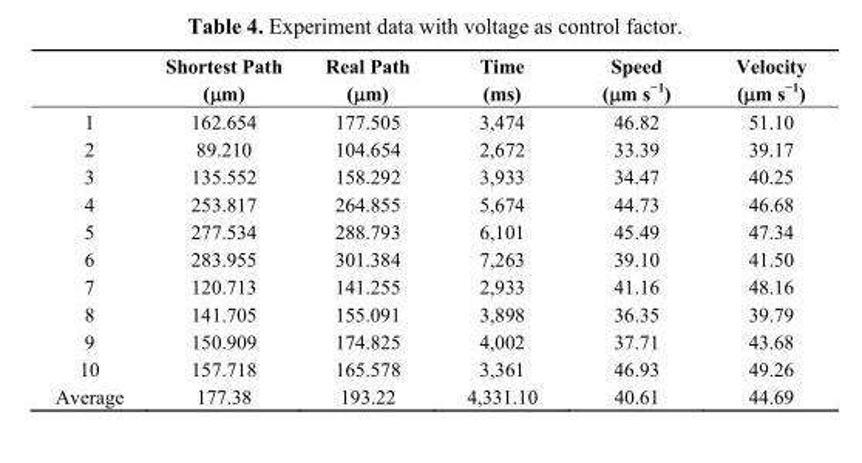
<table><thead><tr><td></td><td>Shortest Path (μm)</td><td>Real Path (μm)</td><td>Time (ms)</td><td>Speed (μm s<sup>−1</sup>)</td><td>Velocity (μm s<sup>−1</sup>)</td></tr></thead><tbody><tr><td>1</td><td>162.654</td><td>177.505</td><td>3,474</td><td>46.82</td><td>51.10</td></tr><tr><td>2</td><td>89.210</td><td>104.654</td><td>2,672</td><td>33.39</td><td>39.17</td></tr><tr><td>3</td><td>135.552</td><td>158.292</td><td>3,933</td><td>34.47</td><td>40.25</td></tr><tr><td>4</td><td>253.817</td><td>264.855</td><td>5,674</td><td>44.73</td><td>46.68</td></tr><tr><td>5</td><td>277.534</td><td>288.793</td><td>6,101</td><td>45.49</td><td>47.34</td></tr><tr><td>6</td><td>283.955</td><td>301.384</td><td>7,263</td><td>39.10</td><td>41.50</td></tr><tr><td>7</td><td>120.713</td><td>141.255</td><td>2,933</td><td>41.16</td><td>48.16</td></tr><tr><td>8</td><td>141.705</td><td>155.091</td><td>3,898</td><td>36.35</td><td>39.79</td></tr><tr><td>9</td><td>150.909</td><td>174.825</td><td>4,002</td><td>37.71</td><td>43.68</td></tr><tr><td>10</td><td>157.718</td><td>165.578</td><td>3,361</td><td>46.93</td><td>49.26</td></tr><tr><td>Average</td><td>177.38</td><td>193.22</td><td>4,331.10</td><td>40.61</td><td>44.69</td></tr></tbody></table>